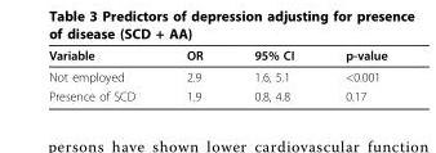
<table><thead><tr><td>Variable</td><td>OR</td><td>95% CI</td><td>p-value</td></tr></thead><tbody><tr><td>Not employed</td><td>2.9</td><td>1.6, 5.1</td><td>&lt;0.001</td></tr><tr><td>Presence of SCD</td><td>1.9</td><td>0.8, 4.8</td><td>0.17</td></tr></tbody></table>